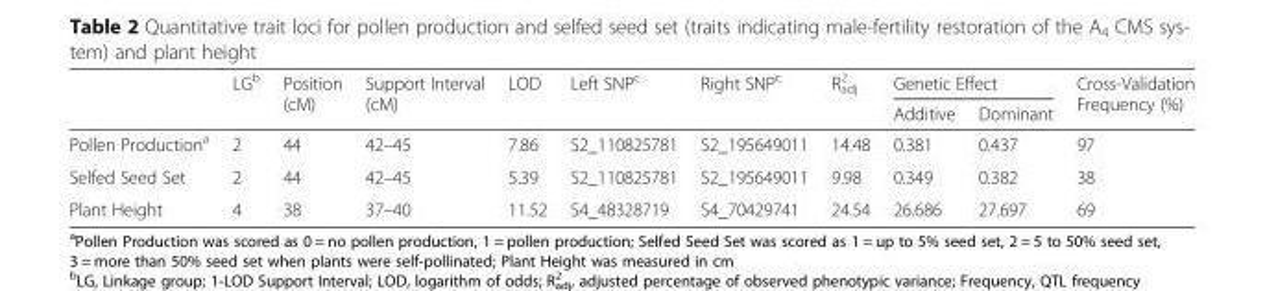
<table><thead><tr><td rowspan="2"></td><td rowspan="2">LG<sup>b</sup></td><td rowspan="2">Position (cM)</td><td rowspan="2">Support Interval (cM)</td><td rowspan="2">LOD</td><td rowspan="2">Left SNP<sup>c</sup></td><td rowspan="2">Right SNP<sup>c</sup></td><td rowspan="2">R<sup>2</sup> <sub>adj</sub></td><td colspan="2">Genetic Effect</td><td rowspan="2">Cross-Validation Frequency (%)</td></tr><tr><td>Additive</td><td>Dominant</td></tr></thead><tbody><tr><td>Pollen Production<sup>a</sup></td><td>2</td><td>44</td><td>42–45</td><td>7.86</td><td>S2_110825781</td><td>S2_195649011</td><td>14.48</td><td>0.381</td><td>0.437</td><td>97</td></tr><tr><td>Selfed Seed Set</td><td>2</td><td>44</td><td>42–45</td><td>5.39</td><td>S2_110825781</td><td>S2_195649011</td><td>9.98</td><td>0.349</td><td>0.382</td><td>38</td></tr><tr><td>Plant Height</td><td>4</td><td>38</td><td>37–40</td><td>11.52</td><td>S4_48328719</td><td>S4_70429741</td><td>24.54</td><td>26.686</td><td>27.697</td><td>69</td></tr></tbody></table>